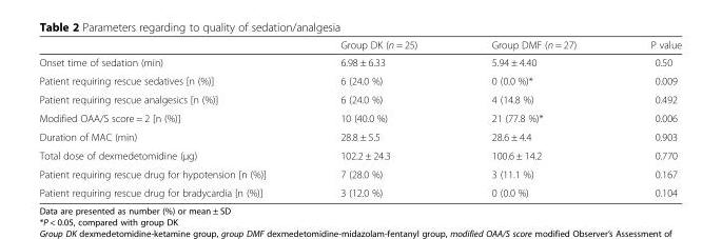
<table><thead><tr><td></td><td>Group DK (n = 25)</td><td>Group DMF (n = 27)</td><td>P value</td></tr></thead><tbody><tr><td>Onset time of sedation (min)</td><td>6.98 ± 6.33</td><td>5.94 ± 4.40</td><td>0.50</td></tr><tr><td>Patient requiring rescue sedatives [n (%)]</td><td>6 (24.0 %)</td><td>0 (0.0 %)*</td><td>0.009</td></tr><tr><td>Patient requiring rescue analgesics [n (%)]</td><td>6 (24.0 %)</td><td>4 (14.8 %)</td><td>0.492</td></tr><tr><td>Modified OAA/S score = 2 [n (%)]</td><td>10 (40.0 %)</td><td>21 (77.8 %)*</td><td>0.006</td></tr><tr><td>Duration of MAC (min)</td><td>28.8 ± 5.5</td><td>28.6 ± 4.4</td><td>0.903</td></tr><tr><td>Total dose of dexmedetomidine (μg)</td><td>102.2 ± 24.3</td><td>100.6 ± 14.2</td><td>0.770</td></tr><tr><td>Patient requiring rescue drug for hypotension [n (%)]</td><td>7 (28.0 %)</td><td>3 (11.1 %)</td><td>0.167</td></tr><tr><td>Patient requiring rescue drug for bradycardia [n (%)]</td><td>3 (12.0 %)</td><td>0 (0.0 %)</td><td>0.104</td></tr></tbody></table>